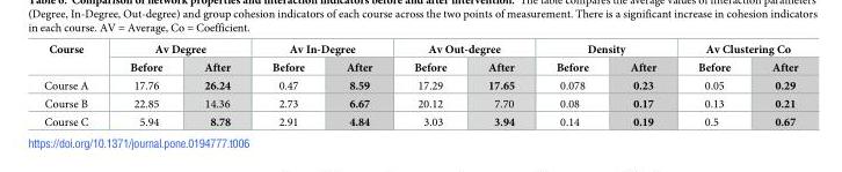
<table><thead><tr><td rowspan="2">Course</td><td colspan="2">Av Degree</td><td colspan="2">Av In-Degree</td><td colspan="2">Av Out-degree</td><td colspan="2">Density</td><td colspan="2">Av Clustering Co</td></tr><tr><td>Before</td><td>After</td><td>Before</td><td>After</td><td>Before</td><td>After</td><td>Before</td><td>After</td><td>Before</td><td>After</td></tr></thead><tbody><tr><td>Course A</td><td>17.76</td><td>26.24</td><td>0.47</td><td>8.59</td><td>17.29</td><td>17.65</td><td>0.078</td><td>0.23</td><td>0.05</td><td>0.29</td></tr><tr><td>Course B</td><td>22.85</td><td>14.36</td><td>2.73</td><td>6.67</td><td>20.12</td><td>7.70</td><td>0.08</td><td>0.17</td><td>0.13</td><td>0.21</td></tr><tr><td>Course C</td><td>5.94</td><td>8.78</td><td>2.91</td><td>4.84</td><td>3.03</td><td>3.94</td><td>0.14</td><td>0.19</td><td>0.5</td><td>0.67</td></tr></tbody></table>